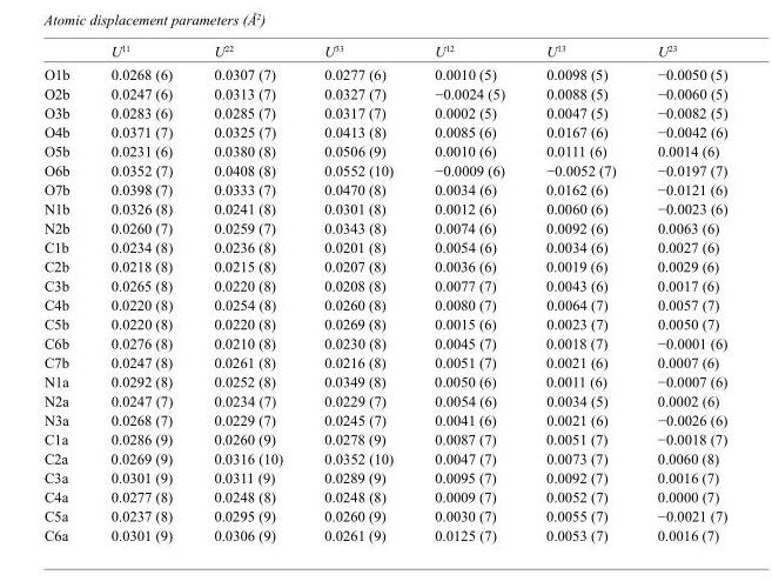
<table><thead><tr><td></td><td>U<sup>11</sup></td><td>U<sup>22</sup></td><td>U<sup>33</sup></td><td>U<sup>12</sup></td><td>U<sup>13</sup></td><td>U<sup>23</sup></td></tr></thead><tbody><tr><td>O1b</td><td>0.0268 (6)</td><td>0.0307 (7)</td><td>0.0277 (6)</td><td>0.0010 (5)</td><td>0.0098 (5)</td><td>−0.0050 (5)</td></tr><tr><td>O2b</td><td>0.0247 (6)</td><td>0.0313 (7)</td><td>0.0327 (7)</td><td>−0.0024 (5)</td><td>0.0088 (5)</td><td>−0.0060 (5)</td></tr><tr><td>O3b</td><td>0.0283 (6)</td><td>0.0285 (7)</td><td>0.0317 (7)</td><td>0.0002 (5)</td><td>0.0047 (5)</td><td>−0.0082 (5)</td></tr><tr><td>O4b</td><td>0.0371 (7)</td><td>0.0325 (7)</td><td>0.0413 (8)</td><td>0.0085 (6)</td><td>0.0167 (6)</td><td>−0.0042 (6)</td></tr><tr><td>O5b</td><td>0.0231 (6)</td><td>0.0380 (8)</td><td>0.0506 (9)</td><td>0.0010 (6)</td><td>0.0111 (6)</td><td>0.0014 (6)</td></tr><tr><td>O6b</td><td>0.0352 (7)</td><td>0.0408 (8)</td><td>0.0552 (10)</td><td>−0.0009 (6)</td><td>−0.0052 (7)</td><td>−0.0197 (7)</td></tr><tr><td>O7b</td><td>0.0398 (7)</td><td>0.0333 (7)</td><td>0.0470 (8)</td><td>0.0034 (6)</td><td>0.0162 (6)</td><td>−0.0121 (6)</td></tr><tr><td>N1b</td><td>0.0326 (8)</td><td>0.0241 (8)</td><td>0.0301 (8)</td><td>0.0012 (6)</td><td>0.0060 (6)</td><td>−0.0023 (6)</td></tr><tr><td>N2b</td><td>0.0260 (7)</td><td>0.0259 (7)</td><td>0.0343 (8)</td><td>0.0074 (6)</td><td>0.0092 (6)</td><td>0.0063 (6)</td></tr><tr><td>C1b</td><td>0.0234 (8)</td><td>0.0236 (8)</td><td>0.0201 (8)</td><td>0.0054 (6)</td><td>0.0034 (6)</td><td>0.0027 (6)</td></tr><tr><td>C2b</td><td>0.0218 (8)</td><td>0.0215 (8)</td><td>0.0207 (8)</td><td>0.0036 (6)</td><td>0.0019 (6)</td><td>0.0029 (6)</td></tr><tr><td>C3b</td><td>0.0265 (8)</td><td>0.0220 (8)</td><td>0.0208 (8)</td><td>0.0077 (7)</td><td>0.0043 (6)</td><td>0.0017 (6)</td></tr><tr><td>C4b</td><td>0.0220 (8)</td><td>0.0254 (8)</td><td>0.0260 (8)</td><td>0.0080 (7)</td><td>0.0064 (7)</td><td>0.0057 (7)</td></tr><tr><td>C5b</td><td>0.0220 (8)</td><td>0.0220 (8)</td><td>0.0269 (8)</td><td>0.0015 (6)</td><td>0.0023 (7)</td><td>0.0050 (7)</td></tr><tr><td>C6b</td><td>0.0276 (8)</td><td>0.0210 (8)</td><td>0.0230 (8)</td><td>0.0045 (7)</td><td>0.0018 (7)</td><td>−0.0001 (6)</td></tr><tr><td>C7b</td><td>0.0247 (8)</td><td>0.0261 (8)</td><td>0.0216 (8)</td><td>0.0051 (7)</td><td>0.0021 (6)</td><td>0.0007 (6)</td></tr><tr><td>N1a</td><td>0.0292 (8)</td><td>0.0252 (8)</td><td>0.0349 (8)</td><td>0.0050 (6)</td><td>0.0011 (6)</td><td>−0.0007 (6)</td></tr><tr><td>N2a</td><td>0.0247 (7)</td><td>0.0234 (7)</td><td>0.0229 (7)</td><td>0.0054 (6)</td><td>0.0034 (5)</td><td>0.0002 (6)</td></tr><tr><td>N3a</td><td>0.0268 (7)</td><td>0.0229 (7)</td><td>0.0245 (7)</td><td>0.0041 (6)</td><td>0.0021 (6)</td><td>−0.0026 (6)</td></tr><tr><td>C1a</td><td>0.0286 (9)</td><td>0.0260 (9)</td><td>0.0278 (9)</td><td>0.0087 (7)</td><td>0.0051 (7)</td><td>−0.0018 (7)</td></tr><tr><td>C2a</td><td>0.0269 (9)</td><td>0.0316 (10)</td><td>0.0352 (10)</td><td>0.0047 (7)</td><td>0.0073 (7)</td><td>0.0060 (8)</td></tr><tr><td>C3a</td><td>0.0301 (9)</td><td>0.0311 (9)</td><td>0.0289 (9)</td><td>0.0095 (7)</td><td>0.0092 (7)</td><td>0.0016 (7)</td></tr><tr><td>C4a</td><td>0.0277 (8)</td><td>0.0248 (8)</td><td>0.0248 (8)</td><td>0.0009 (7)</td><td>0.0052 (7)</td><td>0.0000 (7)</td></tr><tr><td>C5a</td><td>0.0237 (8)</td><td>0.0295 (9)</td><td>0.0260 (9)</td><td>0.0030 (7)</td><td>0.0055 (7)</td><td>−0.0021 (7)</td></tr><tr><td>C6a</td><td>0.0301 (9)</td><td>0.0306 (9)</td><td>0.0261 (9)</td><td>0.0125 (7)</td><td>0.0053 (7)</td><td>0.0016 (7)</td></tr></tbody></table>